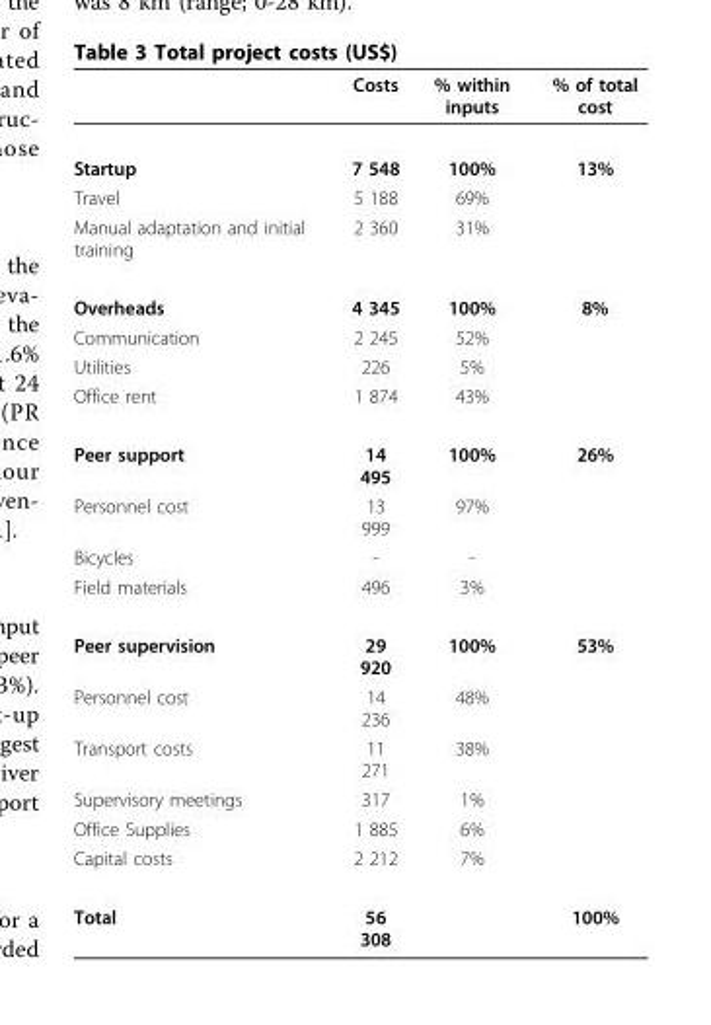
<table><thead><tr><td></td><td>Costs</td><td>% within inputs</td><td>% of total cost</td></tr></thead><tbody><tr><td>Startup</td><td>7 548</td><td>100%</td><td>13%</td></tr><tr><td>Travel</td><td>5 188</td><td>69%</td><td></td></tr><tr><td>Manual adaptation and initial training</td><td>2 360</td><td>31%</td><td></td></tr><tr><td>Overheads</td><td>4 345</td><td>100%</td><td>8%</td></tr><tr><td>Communication</td><td>2 245</td><td>52%</td><td></td></tr><tr><td>Utilities</td><td>226</td><td>5%</td><td></td></tr><tr><td>Office rent</td><td>1 874</td><td>43%</td><td></td></tr><tr><td>Peer support</td><td>14 495</td><td>100%</td><td>26%</td></tr><tr><td>Personnel cost</td><td>13 999</td><td>97%</td><td></td></tr><tr><td>Bicycles</td><td>-</td><td>-</td><td></td></tr><tr><td>Field materials</td><td>496</td><td>3%</td><td></td></tr><tr><td>Peer supervision</td><td>29 920</td><td>100%</td><td>53%</td></tr><tr><td>Personnel cost</td><td>14 236</td><td>48%</td><td></td></tr><tr><td>Transport costs</td><td>11 271</td><td>38%</td><td></td></tr><tr><td>Supervisory meetings</td><td>317</td><td>1%</td><td></td></tr><tr><td>Office Supplies</td><td>1 885</td><td>6%</td><td></td></tr><tr><td>Capital costs</td><td>2 212</td><td>7%</td><td></td></tr><tr><td>Total</td><td>56 308</td><td></td><td>100%</td></tr></tbody></table>